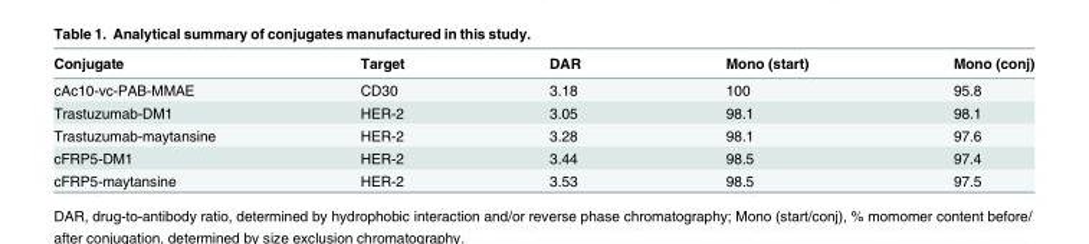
<table><thead><tr><td>Conjugate</td><td>Target</td><td>DAR</td><td>Mono (start)</td><td>Mono (conj)</td></tr></thead><tbody><tr><td>cAc10-vc-PAB-MMAE</td><td>CD30</td><td>3.18</td><td>100</td><td>95.8</td></tr><tr><td>Trastuzumab-DM1</td><td>HER-2</td><td>3.05</td><td>98.1</td><td>98.1</td></tr><tr><td>Trastuzumab-maytansine</td><td>HER-2</td><td>3.28</td><td>98.1</td><td>97.6</td></tr><tr><td>cFRP5-DM1</td><td>HER-2</td><td>3.44</td><td>98.5</td><td>97.4</td></tr><tr><td>cFRP5-maytansine</td><td>HER-2</td><td>3.53</td><td>98.5</td><td>97.5</td></tr></tbody></table>